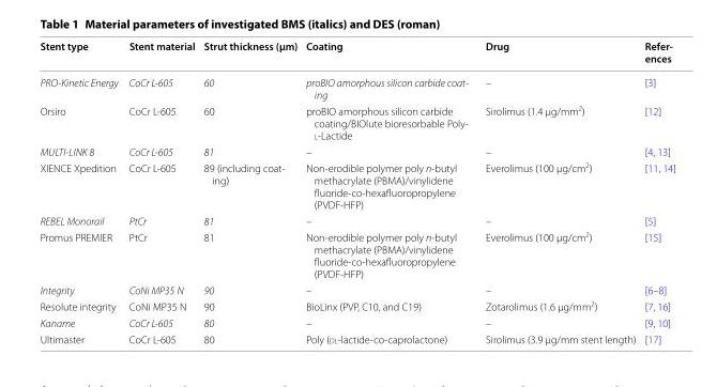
<table><thead><tr><td>Stent type</td><td>Stent material</td><td>Strut thickness (µm)</td><td>Coating</td><td>Drug</td><td>Refer- ences</td></tr></thead><tbody><tr><td>PRO-Kinetic Energy</td><td>CoCr L-605</td><td>60</td><td>proBIO amorphous silicon carbide coat- ing</td><td>–</td><td>[3]</td></tr><tr><td>Orsiro</td><td>CoCr L‑605</td><td>60</td><td>proBIO amorphous silicon carbide coating/BIOlute bioresorbable Poly‑ l‑Lactide</td><td>Sirolimus (1.4 µg/mm<sup>2</sup>)</td><td>[12]</td></tr><tr><td>MULTI-LINK 8</td><td>CoCr L-605</td><td>81</td><td>–</td><td>–</td><td>[4, 13]</td></tr><tr><td>XIENCE Xpedition</td><td>CoCr L‑605</td><td>89 (including coat‑ ing)</td><td>Non‑erodible polymer poly n‑butyl methacrylate (PBMA)/vinylidene fluoride‑co‑hexafluoropropylene (PVDF‑HFP)</td><td>Everolimus (100 µg/cm<sup>2</sup>)</td><td>[11, 14]</td></tr><tr><td>REBEL Monorail</td><td>PtCr</td><td>81</td><td>–</td><td>–</td><td>[5]</td></tr><tr><td>Promus PREMIER</td><td>PtCr</td><td>81</td><td>Non‑erodible polymer poly n‑butyl methacrylate (PBMA)/vinylidene fluoride‑co‑hexafluoropropylene (PVDF‑HFP)</td><td>Everolimus (100 µg/cm<sup>2</sup>)</td><td>[15]</td></tr><tr><td>Integrity</td><td>CoNi MP35 N</td><td>90</td><td>–</td><td>–</td><td>[6–8]</td></tr><tr><td>Resolute integrity</td><td>CoNi MP35 N</td><td>90</td><td>BioLinx (PVP, C10, and C19)</td><td>Zotarolimus (1.6 µg/mm<sup>2</sup>)</td><td>[7, 16]</td></tr><tr><td>Kaname</td><td>CoCr L-605</td><td>80</td><td>–</td><td>–</td><td>[9, 10]</td></tr><tr><td>Ultimaster</td><td>CoCr L‑605</td><td>80</td><td>Poly (dl‑lactide‑co‑caprolactone)</td><td>Sirolimus (3.9 μg/mm stent length)</td><td>[17]</td></tr></tbody></table>